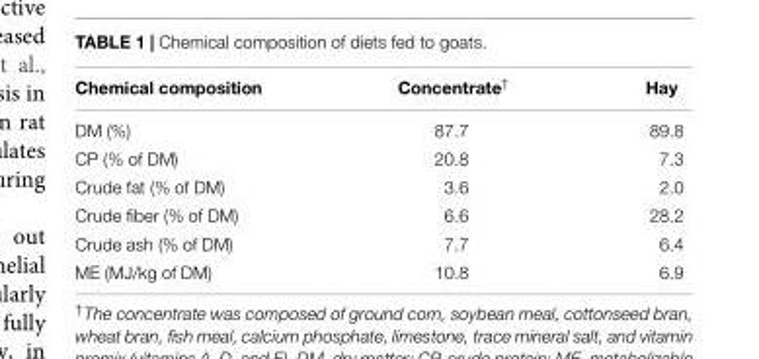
<table><thead><tr><td>Chemical composition</td><td>Concentrate<sup>†</sup></td><td>Hay</td></tr></thead><tbody><tr><td>DM (%)</td><td>87.7</td><td>89.8</td></tr><tr><td>CP (% of DM)</td><td>20.8</td><td>7.3</td></tr><tr><td>Crude fat (% of DM)</td><td>3.6</td><td>2.0</td></tr><tr><td>Crude fiber (% of DM)</td><td>6.6</td><td>28.2</td></tr><tr><td>Crude ash (% of DM)</td><td>7.7</td><td>6.4</td></tr><tr><td>ME (MJ/kg of DM)</td><td>10.8</td><td>6.9</td></tr></tbody></table>